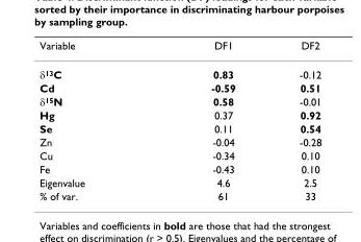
<table><thead><tr><td>Variable</td><td>DF1</td><td>DF2</td></tr></thead><tbody><tr><td>δ<sup>13</sup>C</td><td>0.83</td><td>-0.12</td></tr><tr><td>Cd</td><td>-0.59</td><td>0.51</td></tr><tr><td>δ<sup>15</sup>N</td><td>0.58</td><td>-0.01</td></tr><tr><td>Hg</td><td>0.37</td><td>0.92</td></tr><tr><td>Se</td><td>0.11</td><td>0.54</td></tr><tr><td>Zn</td><td>-0.04</td><td>-0.28</td></tr><tr><td>Cu</td><td>-0.34</td><td>0.10</td></tr><tr><td>Fe</td><td>-0.43</td><td>0.10</td></tr><tr><td>Eigenvalue</td><td>4.6</td><td>2.5</td></tr><tr><td>% of var.</td><td>61</td><td>33</td></tr></tbody></table>